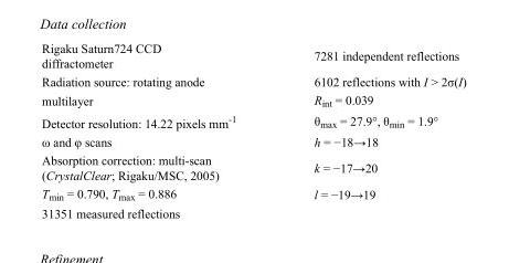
<table><tbody><tr><td>Rigaku Saturn724 CCD diffractometer</td><td>7281 independent reflections</td></tr><tr><td>Radiation source: rotating anode</td><td>6102 reflections with I &gt; 2σ(I)</td></tr><tr><td>multilayer</td><td>R<sub>int</sub> = 0.039</td></tr><tr><td>Detector resolution: 14.22 pixels mm<sup>-1</sup></td><td>θ<sub>max</sub> = 27.9°, θ<sub>min</sub> = 1.9°</td></tr><tr><td>ω and φ scans</td><td>h = −18→18</td></tr><tr><td>Absorption correction: multi-scan (CrystalClear; Rigaku/MSC, 2005)</td><td>k = −17→20</td></tr><tr><td>T<sub>min</sub> = 0.790, T<sub>max</sub> = 0.886</td><td>l = −19→19</td></tr><tr><td>31351 measured reflections</td><td></td></tr></tbody></table>